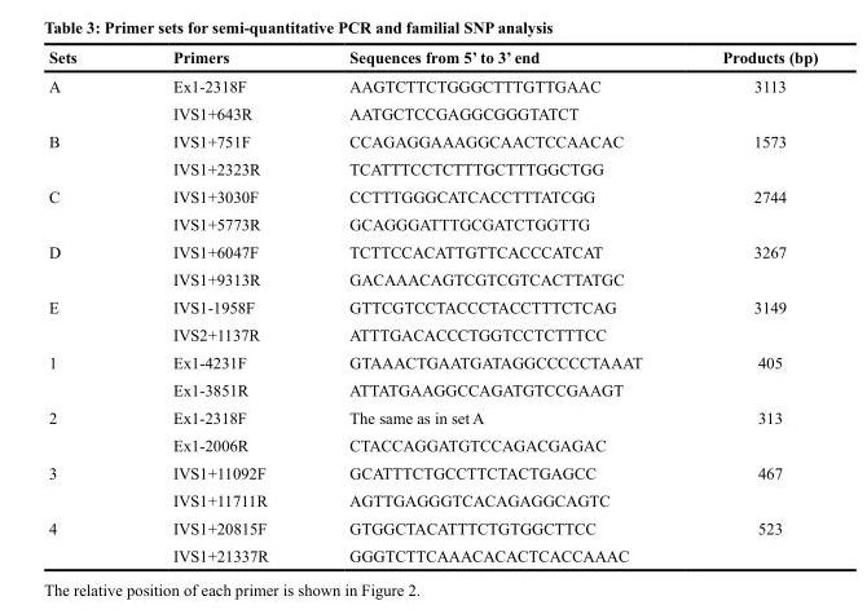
<table><thead><tr><td>Sets</td><td>Primers</td><td>Sequences from 5’ to 3’ end</td><td>Products (bp)</td></tr></thead><tbody><tr><td rowspan="2">A</td><td>Ex1-2318F</td><td>AAGTCTTCTGGGCTTTGTTGAAC</td><td>3113</td></tr><tr><td>IVS1+643R</td><td>AATGCTCCGAGGCGGGTATCT</td><td></td></tr><tr><td rowspan="2">B</td><td>IVS1+751F</td><td>CCAGAGGAAAGGCAACTCCAACAC</td><td>1573</td></tr><tr><td>IVS1+2323R</td><td>TCATTTCCTCTTTGCTTTGGCTGG</td><td></td></tr><tr><td rowspan="2">C</td><td>IVS1+3030F</td><td>CCTTTGGGCATCACCTTTATCGG</td><td>2744</td></tr><tr><td>IVS1+5773R</td><td>GCAGGGATTTGCGATCTGGTTG</td><td></td></tr><tr><td rowspan="2">D</td><td>IVS1+6047F</td><td>TCTTCCACATTGTTCACCCATCAT</td><td>3267</td></tr><tr><td>IVS1+9313R</td><td>GACAAACAGTCGTCGTCACTTATGC</td><td></td></tr><tr><td rowspan="2">E</td><td>IVS1-1958F</td><td>GTTCGTCCTACCCTACCTTTCTCAG</td><td>3149</td></tr><tr><td>IVS2+1137R</td><td>ATTTGACACCCTGGTCCTCTTTCC</td><td></td></tr><tr><td rowspan="2">1</td><td>Ex1-4231F</td><td>GTAAACTGAATGATAGGCCCCCTAAAT</td><td>405</td></tr><tr><td>Ex1-3851R</td><td>ATTATGAAGGCCAGATGTCCGAAGT</td><td></td></tr><tr><td rowspan="2">2</td><td>Ex1-2318F</td><td>The same as in set A</td><td>313</td></tr><tr><td>Ex1-2006R</td><td>CTACCAGGATGTCCAGACGAGAC</td><td></td></tr><tr><td rowspan="2">3</td><td>IVS1+11092F</td><td>GCATTTCTGCCTTCTACTGAGCC</td><td>467</td></tr><tr><td>IVS1+11711R</td><td>AGTTGAGGGTCACAGAGGCAGTC</td><td></td></tr><tr><td rowspan="2">4</td><td>IVS1+20815F</td><td>GTGGCTACATTTCTGTGGCTTCC</td><td>523</td></tr><tr><td>IVS1+21337R</td><td>GGGTCTTCAAACACACTCACCAAAC</td><td></td></tr></tbody></table>